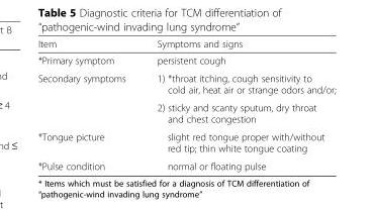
<table><thead><tr><td>Item</td><td>Symptoms and signs</td></tr></thead><tbody><tr><td>*Primary symptom</td><td>persistent cough</td></tr><tr><td rowspan="2">Secondary symptoms</td><td>1) *throat itching, cough sensitivity to cold air, heat air or strange odors and/or;</td></tr><tr><td>2) sticky and scanty sputum, dry throat and chest congestion</td></tr><tr><td>*Tongue picture</td><td>slight red tongue proper with/without red tip; thin white tongue coating</td></tr><tr><td>*Pulse condition</td><td>normal or floating pulse</td></tr></tbody></table>